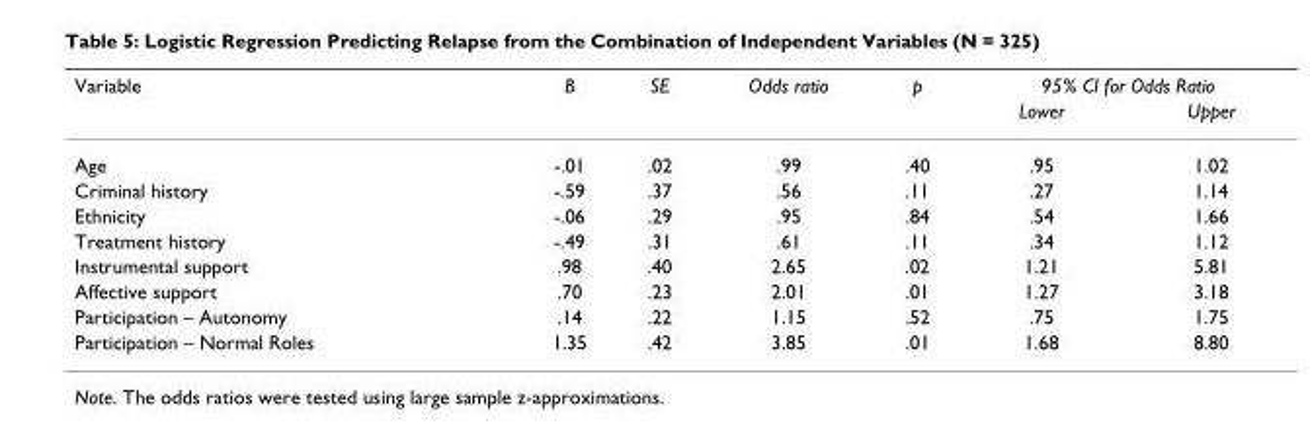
<table><thead><tr><td rowspan="2">Variable</td><td rowspan="2">B</td><td rowspan="2">SE</td><td rowspan="2">Odds ratio</td><td rowspan="2">p</td><td colspan="2">95% CI for Odds Ratio</td></tr><tr><td>Lower</td><td>Upper</td></tr></thead><tbody><tr><td>Age</td><td>-.01</td><td>.02</td><td>.99</td><td>.40</td><td>.95</td><td>1.02</td></tr><tr><td>Criminal history</td><td>-.59</td><td>.37</td><td>.56</td><td>.11</td><td>.27</td><td>1.14</td></tr><tr><td>Ethnicity</td><td>-.06</td><td>.29</td><td>.95</td><td>.84</td><td>.54</td><td>1.66</td></tr><tr><td>Treatment history</td><td>-.49</td><td>.31</td><td>.61</td><td>.11</td><td>.34</td><td>1.12</td></tr><tr><td>Instrumental support</td><td>.98</td><td>.40</td><td>2.65</td><td>.02</td><td>1.21</td><td>5.81</td></tr><tr><td>Affective support</td><td>.70</td><td>.23</td><td>2.01</td><td>.01</td><td>1.27</td><td>3.18</td></tr><tr><td>Participation – Autonomy</td><td>.14</td><td>.22</td><td>1.15</td><td>.52</td><td>.75</td><td>1.75</td></tr><tr><td>Participation – Normal Roles</td><td>1.35</td><td>.42</td><td>3.85</td><td>.01</td><td>1.68</td><td>8.80</td></tr></tbody></table>